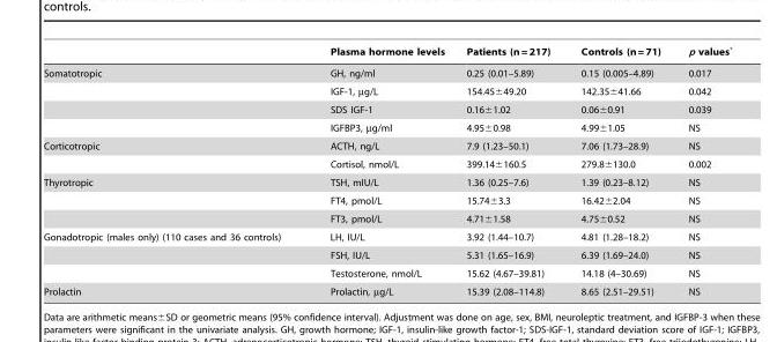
<table><thead><tr><td></td><td>Plasma hormone levels</td><td>Patients (n = 217)</td><td>Controls (n = 71)</td><td>p values┬</td></tr></thead><tbody><tr><td rowspan="4">Somatotropic</td><td>GH, ng/ml</td><td>0.25 (0.01–5.89)</td><td>0.15 (0.005–4.89)</td><td>0.017</td></tr><tr><td>IGF-1, µg/L</td><td>154.45±49.20</td><td>142.35±41.66</td><td>0.042</td></tr><tr><td>SDS IGF-1</td><td>0.16±1.02</td><td>0.06±0.91</td><td>0.039</td></tr><tr><td>IGFBP3, µg/ml</td><td>4.95±0.98</td><td>4.99±1.05</td><td>NS</td></tr><tr><td rowspan="2">Corticotropic</td><td>ACTH, ng/L</td><td>7.9 (1.23–50.1)</td><td>7.06 (1.73–28.9)</td><td>NS</td></tr><tr><td>Cortisol, nmol/L</td><td>399.14±160.5</td><td>279.8±130.0</td><td>0.002</td></tr><tr><td rowspan="3">Thyrotropic</td><td>TSH, mIU/L</td><td>1.36 (0.25–7.6)</td><td>1.39 (0.23–8.12)</td><td>NS</td></tr><tr><td>FT4, pmol/L</td><td>15.74±3.3</td><td>16.42±2.04</td><td>NS</td></tr><tr><td>FT3, pmol/L</td><td>4.71±1.58</td><td>4.75±0.52</td><td>NS</td></tr><tr><td rowspan="3">Gonadotropic (males only) (110 cases and 36 controls)</td><td>LH, IU/L</td><td>3.92 (1.44–10.7)</td><td>4.81 (1.28–18.2)</td><td>NS</td></tr><tr><td>FSH, IU/L</td><td>5.31 (1.65–16.9)</td><td>6.39 (1.69–24.0)</td><td>NS</td></tr><tr><td>Testosterone, nmol/L</td><td>15.62 (4.67–39.81)</td><td>14.18 (4–30.69)</td><td>NS</td></tr><tr><td>Prolactin</td><td>Prolactin, µg/L</td><td>15.39 (2.08–114.8)</td><td>8.65 (2.51–29.51)</td><td>NS</td></tr></tbody></table>